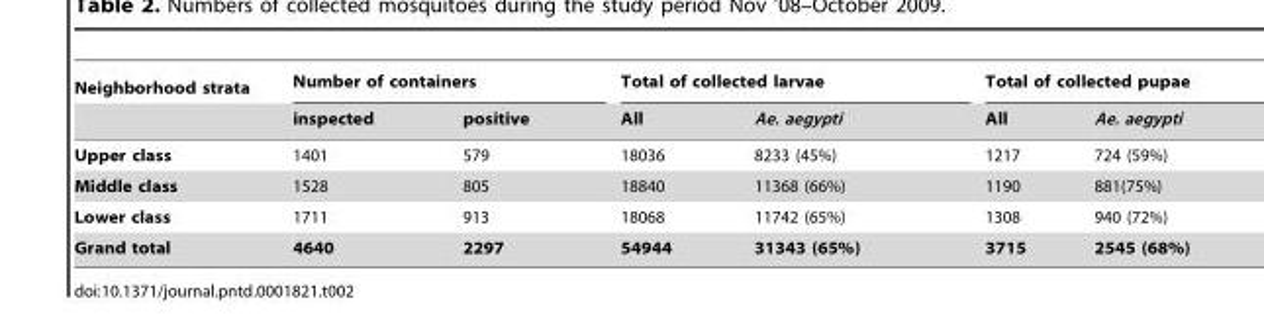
<table><thead><tr><td rowspan="2">Neighborhood strata</td><td colspan="2">Number of containers</td><td colspan="2">Total of collected larvae</td><td colspan="2">Total of collected pupae</td></tr><tr><td>inspected</td><td>positive</td><td>All</td><td>Ae. aegypti</td><td>All</td><td>Ae. aegypti</td></tr></thead><tbody><tr><td>Upper class</td><td>1401</td><td>579</td><td>18036</td><td>8233 (45%)</td><td>1217</td><td>724 (59%)</td></tr><tr><td>Middle class</td><td>1528</td><td>805</td><td>18840</td><td>11368 (66%)</td><td>1190</td><td>881(75%)</td></tr><tr><td>Lower class</td><td>1711</td><td>913</td><td>18068</td><td>11742 (65%)</td><td>1308</td><td>940 (72%)</td></tr><tr><td>Grand total</td><td>4640</td><td>2297</td><td>54944</td><td>31343 (65%)</td><td>3715</td><td>2545 (68%)</td></tr></tbody></table>